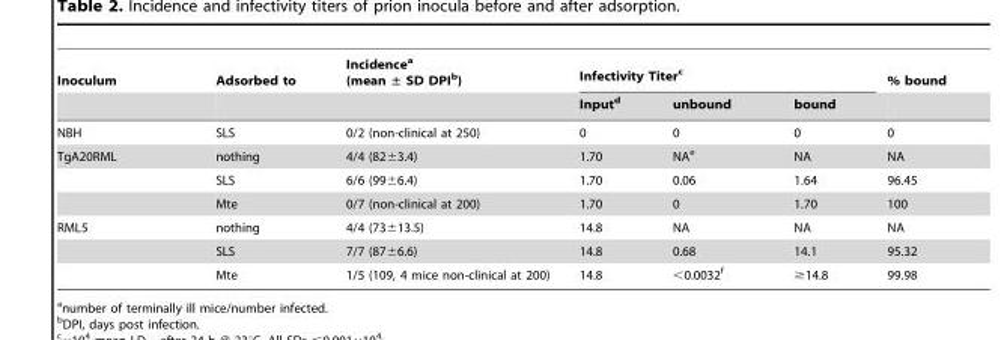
<table><thead><tr><td rowspan="2">Inoculum</td><td rowspan="2">Adsorbed to</td><td rowspan="2">Incidence<sup>a</sup> (mean ± SD DPI<sup>b</sup>)</td><td colspan="3">Infectivity Titer<sup>c</sup></td><td rowspan="2">% bound</td></tr><tr><td>Input<sup>d</sup></td><td>unbound</td><td>bound</td></tr></thead><tbody><tr><td>NBH</td><td>SLS</td><td>0/2 (non-clinical at 250)</td><td>0</td><td>0</td><td>0</td><td>0</td></tr><tr><td rowspan="3">TgA20RML</td><td>nothing</td><td>4/4 (82±3.4)</td><td>1.70</td><td>NA<sup>e</sup></td><td>NA</td><td>NA</td></tr><tr><td>SLS</td><td>6/6 (99±6.4)</td><td>1.70</td><td>0.06</td><td>1.64</td><td>96.45</td></tr><tr><td>Mte</td><td>0/7 (non-clinical at 200)</td><td>1.70</td><td>0</td><td>1.70</td><td>100</td></tr><tr><td rowspan="3">RML5</td><td>nothing</td><td>4/4 (73±13.5)</td><td>14.8</td><td>NA</td><td>NA</td><td>NA</td></tr><tr><td>SLS</td><td>7/7 (87±6.6)</td><td>14.8</td><td>0.68</td><td>14.1</td><td>95.32</td></tr><tr><td>Mte</td><td>1/5 (109, 4 mice non-clinical at 200)</td><td>14.8</td><td>&lt;0.0032<sup>f</sup></td><td>≥14.8</td><td>99.98</td></tr></tbody></table>